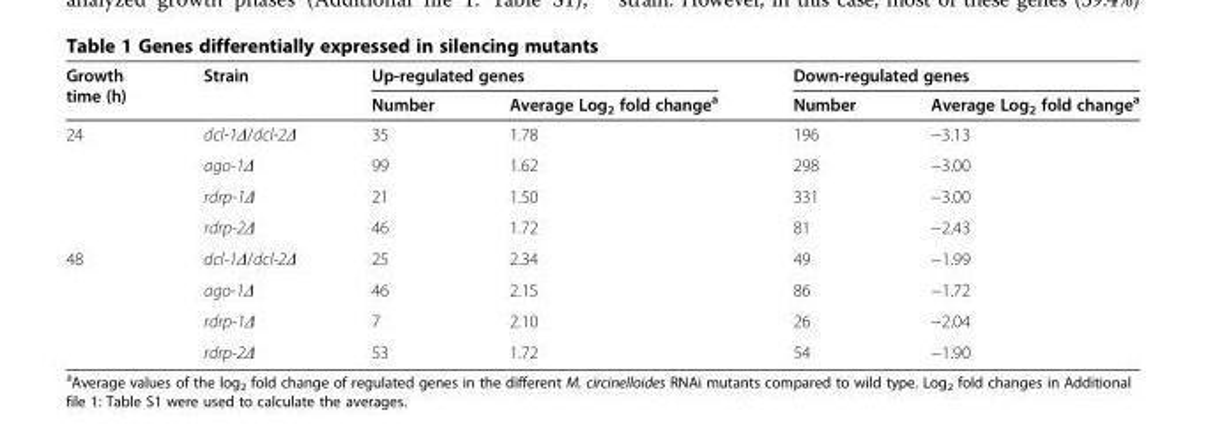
<table><thead><tr><td rowspan="2">Growth time (h)</td><td rowspan="2">Strain</td><td colspan="2">Up-regulated genes</td><td colspan="2">Down-regulated genes</td></tr><tr><td>Number</td><td>Average Log<sub>2</sub> fold change<sup>a</sup></td><td>Number</td><td>Average Log<sub>2</sub> fold change<sup>a</sup></td></tr></thead><tbody><tr><td rowspan="4">24</td><td>dcl-1Δ/dcl-2Δ</td><td>35</td><td>1.78</td><td>196</td><td>−3.13</td></tr><tr><td>ago-1Δ</td><td>99</td><td>1.62</td><td>298</td><td>−3.00</td></tr><tr><td>rdrp-1Δ</td><td>21</td><td>1.50</td><td>331</td><td>−3.00</td></tr><tr><td>rdrp-2Δ</td><td>46</td><td>1.72</td><td>81</td><td>−2.43</td></tr><tr><td rowspan="4">48</td><td>dcl-1Δ/dcl-2Δ</td><td>25</td><td>2.34</td><td>49</td><td>−1.99</td></tr><tr><td>ago-1Δ</td><td>46</td><td>2.15</td><td>86</td><td>−1.72</td></tr><tr><td>rdrp-1Δ</td><td>7</td><td>2.10</td><td>26</td><td>−2.04</td></tr><tr><td>rdrp-2Δ</td><td>53</td><td>1.72</td><td>54</td><td>−1.90</td></tr></tbody></table>